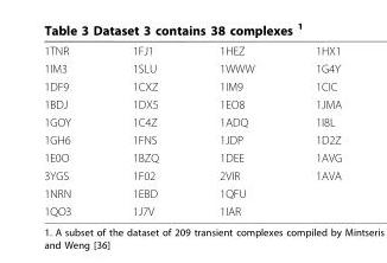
<table><tbody><tr><td>1TNR</td><td>1FJ1</td><td>1HEZ</td><td>1HX1</td></tr><tr><td>1IM3</td><td>1SLU</td><td>1WWW</td><td>1G4Y</td></tr><tr><td>1DF9</td><td>1CXZ</td><td>1IM9</td><td>1CIC</td></tr><tr><td>1BDJ</td><td>1DX5</td><td>1EO8</td><td>1JMA</td></tr><tr><td>1GOY</td><td>1C4Z</td><td>1ADQ</td><td>1I8L</td></tr><tr><td>1GH6</td><td>1FNS</td><td>1JDP</td><td>1D2Z</td></tr><tr><td>1E0O</td><td>1BZQ</td><td>1DEE</td><td>1AVG</td></tr><tr><td>3YGS</td><td>1F02</td><td>2VIR</td><td>1AVA</td></tr><tr><td>1NRN</td><td>1EBD</td><td>1QFU</td><td></td></tr><tr><td>1QO3</td><td>1J7V</td><td>1IAR</td><td></td></tr></tbody></table>